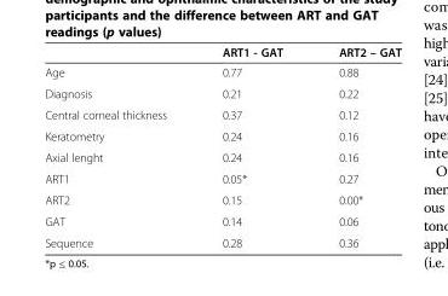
<table><thead><tr><td></td><td>ART1 - GAT</td><td>ART2 – GAT</td></tr></thead><tbody><tr><td>Age</td><td>0.77</td><td>0.88</td></tr><tr><td>Diagnosis</td><td>0.21</td><td>0.22</td></tr><tr><td>Central corneal thickness</td><td>0.37</td><td>0.12</td></tr><tr><td>Keratometry</td><td>0.24</td><td>0.16</td></tr><tr><td>Axial lenght</td><td>0.24</td><td>0.16</td></tr><tr><td>ART1</td><td>0.05*</td><td>0.27</td></tr><tr><td>ART2</td><td>0.15</td><td>0.00*</td></tr><tr><td>GAT</td><td>0.14</td><td>0.06</td></tr><tr><td>Sequence</td><td>0.28</td><td>0.36</td></tr></tbody></table>